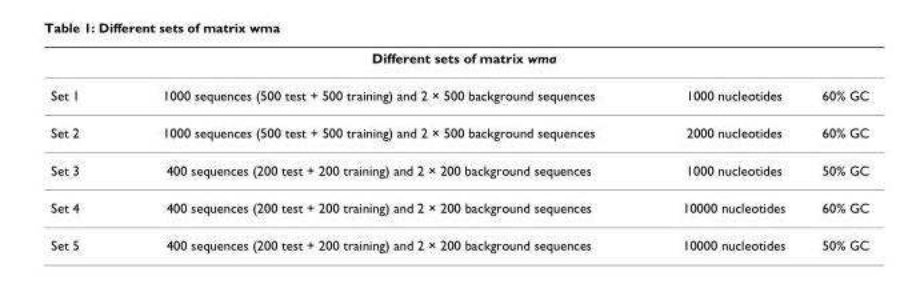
<table><thead><tr><td colspan="4">Different sets of matrix wma</td></tr><tr><td>Set 1</td><td>1000 sequences (500 test + 500 training) and 2 × 500 background sequences</td><td>1000 nucleotides</td><td>60% GC</td></tr></thead><tbody><tr><td>Set 2</td><td>1000 sequences (500 test + 500 training) and 2 × 500 background sequences</td><td>2000 nucleotides</td><td>60% GC</td></tr><tr><td>Set 3</td><td>400 sequences (200 test + 200 training) and 2 × 200 background sequences</td><td>1000 nucleotides</td><td>50% GC</td></tr><tr><td>Set 4</td><td>400 sequences (200 test + 200 training) and 2 × 200 background sequences</td><td>10000 nucleotides</td><td>60% GC</td></tr><tr><td>Set 5</td><td>400 sequences (200 test + 200 training) and 2 × 200 background sequences</td><td>10000 nucleotides</td><td>50% GC</td></tr></tbody></table>